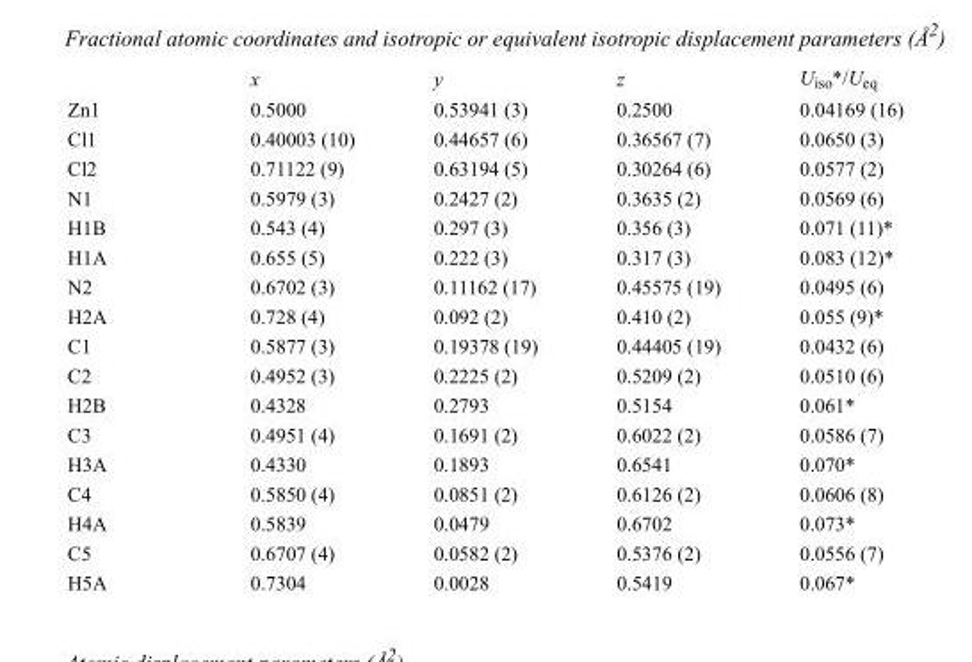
<table><thead><tr><td></td><td>x</td><td>y</td><td>z</td><td>U<sub>iso</sub>*/U<sub>eq</sub></td></tr></thead><tbody><tr><td>Zn1</td><td>0.5000</td><td>0.53941 (3)</td><td>0.2500</td><td>0.04169 (16)</td></tr><tr><td>Cl1</td><td>0.40003 (10)</td><td>0.44657 (6)</td><td>0.36567 (7)</td><td>0.0650 (3)</td></tr><tr><td>Cl2</td><td>0.71122 (9)</td><td>0.63194 (5)</td><td>0.30264 (6)</td><td>0.0577 (2)</td></tr><tr><td>N1</td><td>0.5979 (3)</td><td>0.2427 (2)</td><td>0.3635 (2)</td><td>0.0569 (6)</td></tr><tr><td>H1B</td><td>0.543 (4)</td><td>0.297 (3)</td><td>0.356 (3)</td><td>0.071 (11)*</td></tr><tr><td>H1A</td><td>0.655 (5)</td><td>0.222 (3)</td><td>0.317 (3)</td><td>0.083 (12)*</td></tr><tr><td>N2</td><td>0.6702 (3)</td><td>0.11162 (17)</td><td>0.45575 (19)</td><td>0.0495 (6)</td></tr><tr><td>H2A</td><td>0.728 (4)</td><td>0.092 (2)</td><td>0.410 (2)</td><td>0.055 (9)*</td></tr><tr><td>C1</td><td>0.5877 (3)</td><td>0.19378 (19)</td><td>0.44405 (19)</td><td>0.0432 (6)</td></tr><tr><td>C2</td><td>0.4952 (3)</td><td>0.2225 (2)</td><td>0.5209 (2)</td><td>0.0510 (6)</td></tr><tr><td>H2B</td><td>0.4328</td><td>0.2793</td><td>0.5154</td><td>0.061*</td></tr><tr><td>C3</td><td>0.4951 (4)</td><td>0.1691 (2)</td><td>0.6022 (2)</td><td>0.0586 (7)</td></tr><tr><td>H3A</td><td>0.4330</td><td>0.1893</td><td>0.6541</td><td>0.070*</td></tr><tr><td>C4</td><td>0.5850 (4)</td><td>0.0851 (2)</td><td>0.6126 (2)</td><td>0.0606 (8)</td></tr><tr><td>H4A</td><td>0.5839</td><td>0.0479</td><td>0.6702</td><td>0.073*</td></tr><tr><td>C5</td><td>0.6707 (4)</td><td>0.0582 (2)</td><td>0.5376 (2)</td><td>0.0556 (7)</td></tr><tr><td>H5A</td><td>0.7304</td><td>0.0028</td><td>0.5419</td><td>0.067*</td></tr></tbody></table>